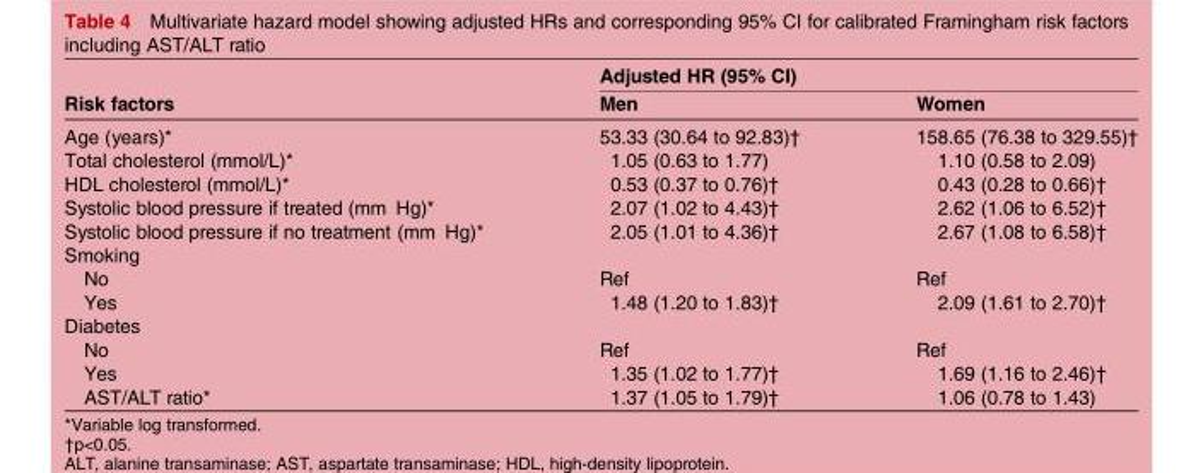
<table><thead><tr><td rowspan="2">Risk factors</td><td colspan="2">Adjusted HR (95% CI)</td></tr><tr><td>Men</td><td>Women</td></tr></thead><tbody><tr><td>Age (years)*</td><td>53.33 (30.64 to 92.83)†</td><td>158.65 (76.38 to 329.55)†</td></tr><tr><td>Total cholesterol (mmol/L)*</td><td>1.05 (0.63 to 1.77)</td><td>1.10 (0.58 to 2.09)</td></tr><tr><td>HDL cholesterol (mmol/L)*</td><td>0.53 (0.37 to 0.76)†</td><td>0.43 (0.28 to 0.66)†</td></tr><tr><td>Systolic blood pressure if treated (mm Hg)*</td><td>2.07 (1.02 to 4.43)†</td><td>2.62 (1.06 to 6.52)†</td></tr><tr><td>Systolic blood pressure if no treatment (mm Hg)*</td><td>2.05 (1.01 to 4.36)†</td><td>2.67 (1.08 to 6.58)†</td></tr><tr><td colspan="3">Smoking</td></tr><tr><td>No</td><td>Ref</td><td>Ref</td></tr><tr><td>Yes</td><td>1.48 (1.20 to 1.83)†</td><td>2.09 (1.61 to 2.70)†</td></tr><tr><td colspan="3">Diabetes</td></tr><tr><td>No</td><td>Ref</td><td>Ref</td></tr><tr><td>Yes</td><td>1.35 (1.02 to 1.77)†</td><td>1.69 (1.16 to 2.46)†</td></tr><tr><td>AST/ALT ratio*</td><td>1.37 (1.05 to 1.79)†</td><td>1.06 (0.78 to 1.43)</td></tr></tbody></table>